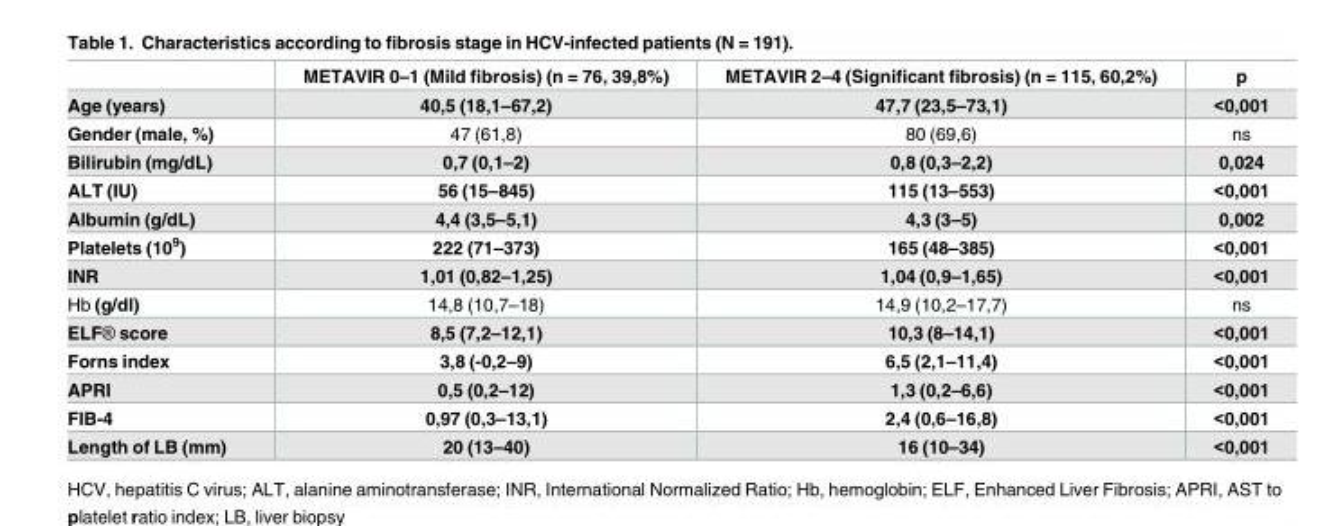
<table><thead><tr><td></td><td>METAVIR 0–1 (Mild fibrosis) (n = 76, 39,8%)</td><td>METAVIR 2–4 (Significant fibrosis) (n = 115, 60,2%)</td><td>p</td></tr></thead><tbody><tr><td>Age (years)</td><td>40,5 (18,1–67,2)</td><td>47,7 (23,5–73,1)</td><td>&lt;0,001</td></tr><tr><td>Gender (male, %)</td><td>47 (61,8)</td><td>80 (69,6)</td><td>ns</td></tr><tr><td>Bilirubin (mg/dL)</td><td>0,7 (0,1–2)</td><td>0,8 (0,3–2,2)</td><td>0,024</td></tr><tr><td>ALT (IU)</td><td>56 (15–845)</td><td>115 (13–553)</td><td>&lt;0,001</td></tr><tr><td>Albumin (g/dL)</td><td>4,4 (3,5–5,1)</td><td>4,3 (3–5)</td><td>0,002</td></tr><tr><td>Platelets (10<sup>9</sup>)</td><td>222 (71–373)</td><td>165 (48–385)</td><td>&lt;0,001</td></tr><tr><td>INR</td><td>1,01 (0,82–1,25)</td><td>1,04 (0,9–1,65)</td><td>&lt;0,001</td></tr><tr><td>Hb (g/dl)</td><td>14,8 (10,7–18)</td><td>14,9 (10,2–17,7)</td><td>ns</td></tr><tr><td>ELF® score</td><td>8,5 (7,2–12,1)</td><td>10,3 (8–14,1)</td><td>&lt;0,001</td></tr><tr><td>Forns index</td><td>3,8 (-0,2–9)</td><td>6,5 (2,1–11,4)</td><td>&lt;0,001</td></tr><tr><td>APRI</td><td>0,5 (0,2–12)</td><td>1,3 (0,2–6,6)</td><td>&lt;0,001</td></tr><tr><td>FIB-4</td><td>0,97 (0,3–13,1)</td><td>2,4 (0,6–16,8)</td><td>&lt;0,001</td></tr><tr><td>Length of LB (mm)</td><td>20 (13–40)</td><td>16 (10–34)</td><td>&lt;0,001</td></tr></tbody></table>